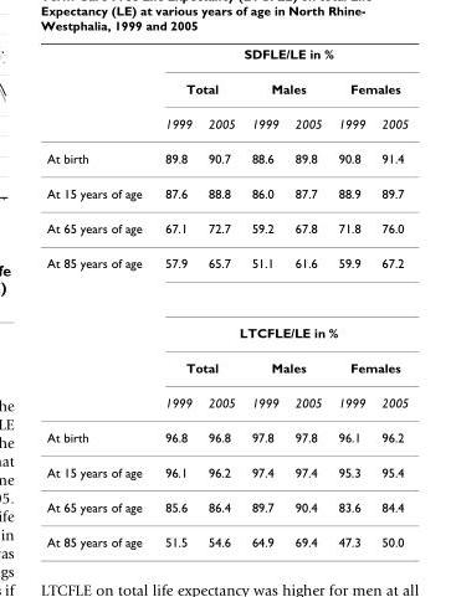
<table><thead><tr><td rowspan="3"></td><td colspan="6">SDFLE/LE in %</td></tr><tr><td colspan="2">Total</td><td colspan="2">Males</td><td colspan="2">Females</td></tr><tr><td>1999</td><td>2005</td><td>1999</td><td>2005</td><td>1999</td><td>2005</td></tr></thead><tbody><tr><td>At birth</td><td>89.8</td><td>90.7</td><td>88.6</td><td>89.8</td><td>90.8</td><td>91.4</td></tr><tr><td>At 15 years of age</td><td>87.6</td><td>88.8</td><td>86.0</td><td>87.7</td><td>88.9</td><td>89.7</td></tr><tr><td>At 65 years of age</td><td>67.1</td><td>72.7</td><td>59.2</td><td>67.8</td><td>71.8</td><td>76.0</td></tr><tr><td rowspan="4">At 85 years of age</td><td>57.9</td><td>65.7</td><td>51.1</td><td>61.6</td><td>59.9</td><td>67.2</td></tr><tr><td colspan="6">LTCFLE/LE in %</td></tr><tr><td colspan="2">Total</td><td colspan="2">Males</td><td colspan="2">Females</td></tr><tr><td>1999</td><td>2005</td><td>1999</td><td>2005</td><td>1999</td><td>2005</td></tr><tr><td>At birth</td><td>96.8</td><td>96.8</td><td>97.8</td><td>97.8</td><td>96.1</td><td>96.2</td></tr><tr><td>At 15 years of age</td><td>96.1</td><td>96.2</td><td>97.4</td><td>97.4</td><td>95.3</td><td>95.4</td></tr><tr><td>At 65 years of age</td><td>85.6</td><td>86.4</td><td>89.7</td><td>90.4</td><td>83.6</td><td>84.4</td></tr><tr><td>At 85 years of age</td><td>51.5</td><td>54.6</td><td>64.9</td><td>69.4</td><td>47.3</td><td>50.0</td></tr></tbody></table>